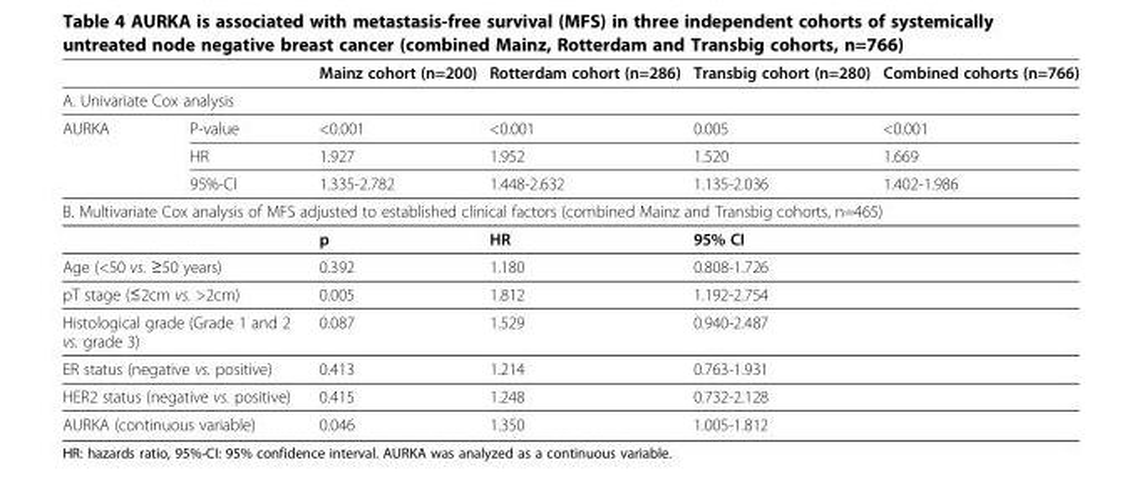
<table><thead><tr><td></td><td></td><td>Mainz cohort (n=200)</td><td>Rotterdam cohort (n=286)</td><td>Transbig cohort (n=280)</td><td>Combined cohorts (n=766)</td></tr></thead><tbody><tr><td colspan="6">A. Univariate Cox analysis</td></tr><tr><td rowspan="3">AURKA</td><td>P-value</td><td>&lt;0.001</td><td>&lt;0.001</td><td>0.005</td><td>&lt;0.001</td></tr><tr><td>HR</td><td>1.927</td><td>1.952</td><td>1.520</td><td>1.669</td></tr><tr><td>95%-CI</td><td>1.335-2.782</td><td>1.448-2.632</td><td>1.135-2.036</td><td>1.402-1.986</td></tr><tr><td colspan="6">B. Multivariate Cox analysis of MFS adjusted to established clinical factors (combined Mainz and Transbig cohorts, n=465)</td></tr><tr><td colspan="2"></td><td>p</td><td>HR</td><td colspan="2">95% CI</td></tr><tr><td colspan="2">Age (&lt;50 vs. ≥50 years)</td><td>0.392</td><td>1.180</td><td colspan="2">0.808-1.726</td></tr><tr><td colspan="2">pT stage (≤2cm vs. &gt;2cm)</td><td>0.005</td><td>1.812</td><td colspan="2">1.192-2.754</td></tr><tr><td colspan="2">Histological grade (Grade 1 and 2 vs. grade 3)</td><td>0.087</td><td>1.529</td><td colspan="2">0.940-2.487</td></tr><tr><td colspan="2">ER status (negative vs. positive)</td><td>0.413</td><td>1.214</td><td colspan="2">0.763-1.931</td></tr><tr><td colspan="2">HER2 status (negative vs. positive)</td><td>0.415</td><td>1.248</td><td colspan="2">0.732-2.128</td></tr><tr><td colspan="2">AURKA (continuous variable)</td><td>0.046</td><td>1.350</td><td colspan="2">1.005-1.812</td></tr></tbody></table>